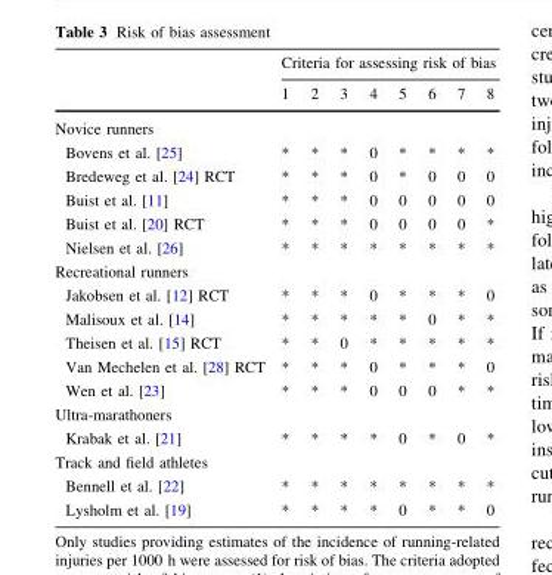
<table><thead><tr><td rowspan="2"></td><td colspan="8">Criteria for assessing risk of bias</td></tr><tr><td>1</td><td>2</td><td>3</td><td>4</td><td>5</td><td>6</td><td>7</td><td>8</td></tr></thead><tbody><tr><td colspan="9">Novice runners</td></tr><tr><td>Bovens et al. [25]</td><td>*</td><td>*</td><td>*</td><td>0</td><td>*</td><td>*</td><td>*</td><td>*</td></tr><tr><td>Bredeweg et al. [24] RCT</td><td>*</td><td>*</td><td>*</td><td>0</td><td>*</td><td>0</td><td>0</td><td>0</td></tr><tr><td>Buist et al. [11]</td><td>*</td><td>*</td><td>*</td><td>0</td><td>0</td><td>0</td><td>0</td><td>0</td></tr><tr><td>Buist et al. [20] RCT</td><td>*</td><td>*</td><td>*</td><td>0</td><td>0</td><td>0</td><td>0</td><td>*</td></tr><tr><td>Nielsen et al. [26]</td><td>*</td><td>*</td><td>*</td><td>*</td><td>*</td><td>*</td><td>*</td><td>*</td></tr><tr><td colspan="9">Recreational runners</td></tr><tr><td>Jakobsen et al. [12] RCT</td><td>*</td><td>*</td><td>*</td><td>0</td><td>*</td><td>*</td><td>*</td><td>0</td></tr><tr><td>Malisoux et al. [14]</td><td>*</td><td>*</td><td>*</td><td>*</td><td>*</td><td>0</td><td>*</td><td>*</td></tr><tr><td>Theisen et al. [15] RCT</td><td>*</td><td>*</td><td>0</td><td>*</td><td>*</td><td>*</td><td>*</td><td>*</td></tr><tr><td>Van Mechelen et al. [28] RCT</td><td>*</td><td>*</td><td>*</td><td>0</td><td>*</td><td>*</td><td>*</td><td>0</td></tr><tr><td>Wen et al. [23]</td><td>*</td><td>*</td><td>*</td><td>0</td><td>0</td><td>0</td><td>*</td><td>*</td></tr><tr><td colspan="9">Ultra-marathoners</td></tr><tr><td>Krabak et al. [21]</td><td>*</td><td>*</td><td>*</td><td>*</td><td>0</td><td>*</td><td>0</td><td>*</td></tr><tr><td colspan="9">Track and field athletes</td></tr><tr><td>Bennell et al. [22]</td><td>*</td><td>*</td><td>*</td><td>*</td><td>*</td><td>*</td><td>*</td><td>*</td></tr><tr><td>Lysholm et al. [19]</td><td>*</td><td>*</td><td>*</td><td>*</td><td>0</td><td>*</td><td>*</td><td>0</td></tr></tbody></table>